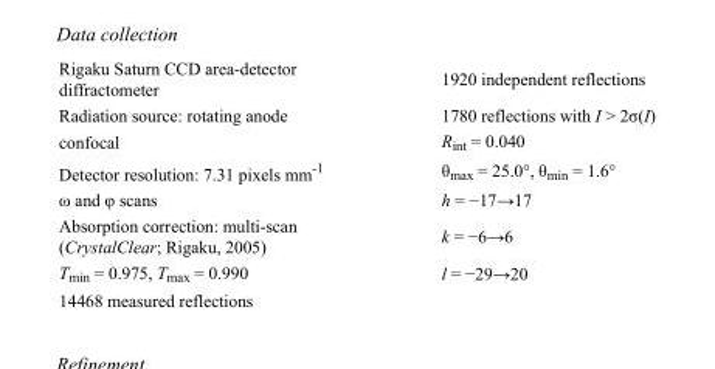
<table><tbody><tr><td>Rigaku Saturn CCD area-detector diffractometer</td><td>1920 independent reflections</td></tr><tr><td>Radiation source: rotating anode</td><td>1780 reflections with I &gt; 2σ(I)</td></tr><tr><td>confocal</td><td>R<sub>int</sub> = 0.040</td></tr><tr><td>Detector resolution: 7.31 pixels mm<sup>-1</sup></td><td>θ<sub>max</sub> = 25.0°, θ<sub>min</sub> = 1.6°</td></tr><tr><td>ω and φ scans</td><td>h = −17→17</td></tr><tr><td>Absorption correction: multi-scan (CrystalClear; Rigaku, 2005)</td><td>k = −6→6</td></tr><tr><td>T<sub>min</sub> = 0.975, T<sub>max</sub> = 0.990</td><td>l = −29→20</td></tr><tr><td>14468 measured reflections</td><td></td></tr></tbody></table>